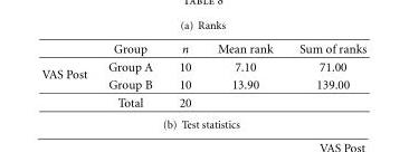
<table><thead><tr><td></td><td>Group</td><td>n</td><td>Mean rank</td><td>Sum of ranks</td></tr></thead><tbody><tr><td rowspan="3">VAS Post</td><td>Group A</td><td>10</td><td>7.10</td><td>71.00</td></tr><tr><td>Group B</td><td>10</td><td>13.90</td><td>139.00</td></tr><tr><td>Total</td><td>20</td><td></td><td></td></tr></tbody></table>